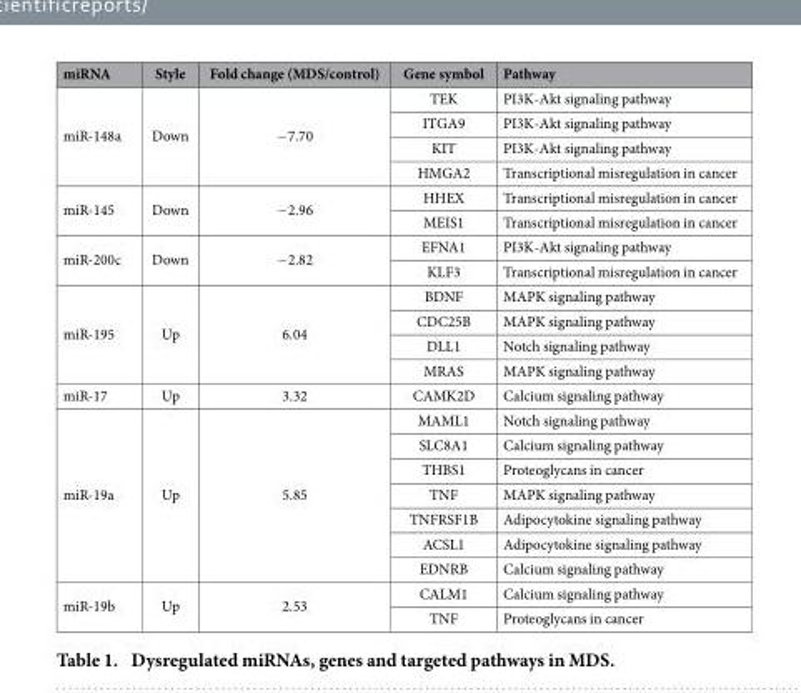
<table><thead><tr><td>miRNA</td><td>Style</td><td>Fold change (MDS/control)</td><td>Gene symbol</td><td>Pathway</td></tr></thead><tbody><tr><td rowspan="4">miR-148a</td><td rowspan="4">Down</td><td rowspan="4">− 7.70</td><td>TEK</td><td>PI3K-Akt signaling pathway</td></tr><tr><td>ITGA9</td><td>PI3K-Akt signaling pathway</td></tr><tr><td>KIT</td><td>PI3K-Akt signaling pathway</td></tr><tr><td>HMGA2</td><td>Transcriptional misregulation in cancer</td></tr><tr><td rowspan="2">miR-145</td><td rowspan="2">Down</td><td rowspan="2">− 2.96</td><td>HHEX</td><td>Transcriptional misregulation in cancer</td></tr><tr><td>MEIS1</td><td>Transcriptional misregulation in cancer</td></tr><tr><td rowspan="2">miR-200c</td><td rowspan="2">Down</td><td rowspan="2">− 2.82</td><td>EFNA1</td><td>PI3K-Akt signaling pathway</td></tr><tr><td>KLF3</td><td>Transcriptional misregulation in cancer</td></tr><tr><td rowspan="4">miR-195</td><td rowspan="4">Up</td><td rowspan="4">6.04</td><td>BDNF</td><td>MAPK signaling pathway</td></tr><tr><td>CDC25B</td><td>MAPK signaling pathway</td></tr><tr><td>DLL1</td><td>Notch signaling pathway</td></tr><tr><td>MRAS</td><td>MAPK signaling pathway</td></tr><tr><td>miR-17</td><td>Up</td><td>3.32</td><td>CAMK2D</td><td>Calcium signaling pathway</td></tr><tr><td rowspan="7">miR-19a</td><td rowspan="7">Up</td><td rowspan="7">5.85</td><td>MAML1</td><td>Notch signaling pathway</td></tr><tr><td>SLC8A1</td><td>Calcium signaling pathway</td></tr><tr><td>THBS1</td><td>Proteoglycans in cancer</td></tr><tr><td>TNF</td><td>MAPK signaling pathway</td></tr><tr><td>TNFRSF1B</td><td>Adipocytokine signaling pathway</td></tr><tr><td>ACSL1</td><td>Adipocytokine signaling pathway</td></tr><tr><td>EDNRB</td><td>Calcium signaling pathway</td></tr><tr><td rowspan="2">miR-19b</td><td rowspan="2">Up</td><td rowspan="2">2.53</td><td>CALM1</td><td>Calcium signaling pathway</td></tr><tr><td>TNF</td><td>Proteoglycans in cancer</td></tr></tbody></table>